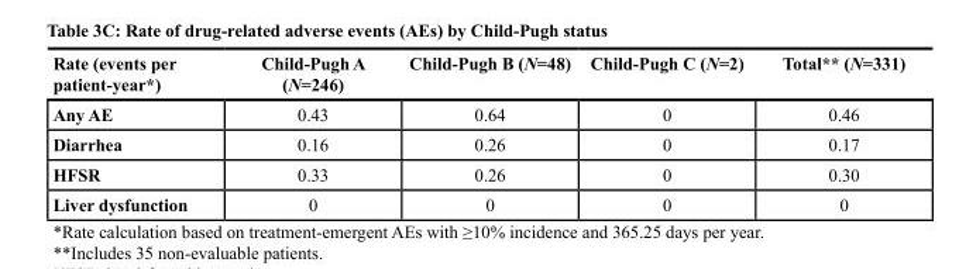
<table><thead><tr><td>Rate (events per patient-year*)</td><td>Child-Pugh A (N=246)</td><td>Child-Pugh B (N=48)</td><td>Child-Pugh C (N=2)</td><td>Total** (N=331)</td></tr></thead><tbody><tr><td>Any AE</td><td>0.43</td><td>0.64</td><td>0</td><td>0.46</td></tr><tr><td>Diarrhea</td><td>0.16</td><td>0.26</td><td>0</td><td>0.17</td></tr><tr><td>HFSR</td><td>0.33</td><td>0.26</td><td>0</td><td>0.30</td></tr><tr><td>Liver dysfunction</td><td>0</td><td>0</td><td>0</td><td>0</td></tr></tbody></table>